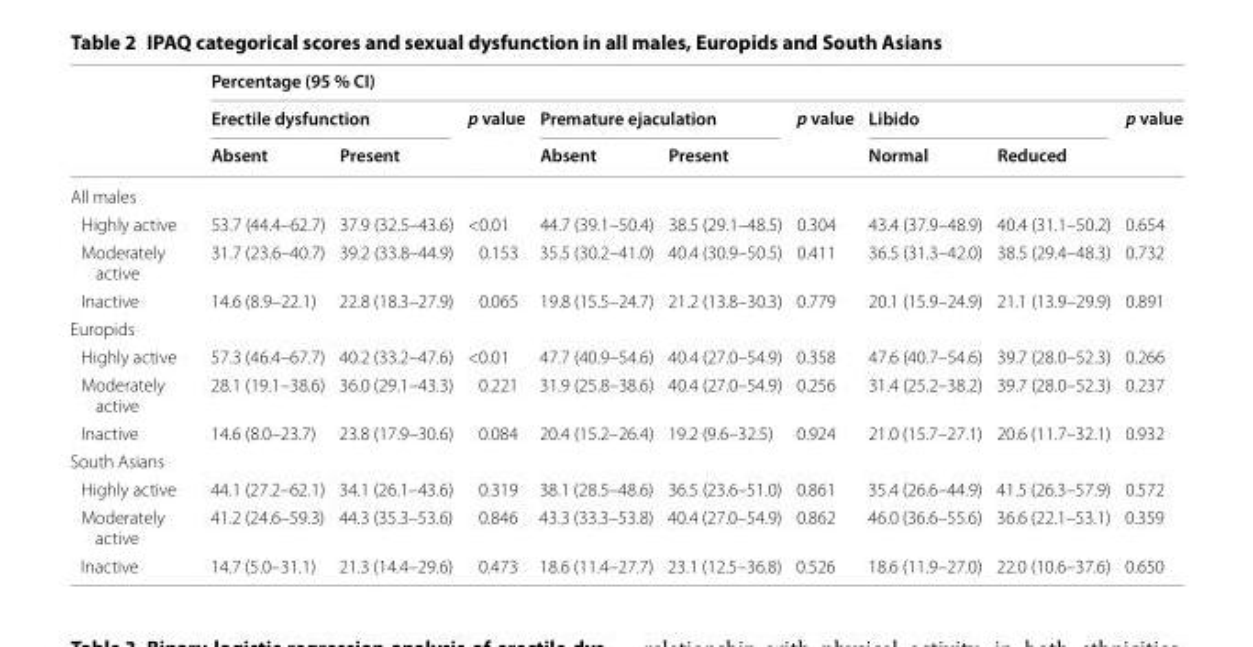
<table><thead><tr><td rowspan="3"></td><td colspan="9">Percentage (95 % CI)</td></tr><tr><td colspan="2">Erectile dysfunction</td><td rowspan="2">p value</td><td colspan="2">Premature ejaculation</td><td rowspan="2">p value</td><td colspan="2">Libido</td><td rowspan="2">p value</td></tr><tr><td>Absent</td><td>Present</td><td>Absent</td><td>Present</td><td>Normal</td><td>Reduced</td></tr></thead><tbody><tr><td colspan="10">All males</td></tr><tr><td>Highly active</td><td>53.7 (44.4–62.7)</td><td>37.9 (32.5–43.6)</td><td>&lt;0.01</td><td>44.7 (39.1–50.4)</td><td>38.5 (29.1–48.5)</td><td>0.304</td><td>43.4 (37.9–48.9)</td><td>40.4 (31.1–50.2)</td><td>0.654</td></tr><tr><td>Moderately active</td><td>31.7 (23.6–40.7)</td><td>39.2 (33.8–44.9)</td><td>0.153</td><td>35.5 (30.2–41.0)</td><td>40.4 (30.9–50.5)</td><td>0.411</td><td>36.5 (31.3–42.0)</td><td>38.5 (29.4–48.3)</td><td>0.732</td></tr><tr><td>Inactive</td><td>14.6 (8.9–22.1)</td><td>22.8 (18.3–27.9)</td><td>0.065</td><td>19.8 (15.5–24.7)</td><td>21.2 (13.8–30.3)</td><td>0.779</td><td>20.1 (15.9–24.9)</td><td>21.1 (13.9–29.9)</td><td>0.891</td></tr><tr><td colspan="10">Europids</td></tr><tr><td>Highly active</td><td>57.3 (46.4–67.7)</td><td>40.2 (33.2–47.6)</td><td>&lt;0.01</td><td>47.7 (40.9–54.6)</td><td>40.4 (27.0–54.9)</td><td>0.358</td><td>47.6 (40.7–54.6)</td><td>39.7 (28.0–52.3)</td><td>0.266</td></tr><tr><td>Moderately active</td><td>28.1 (19.1–38.6)</td><td>36.0 (29.1–43.3)</td><td>0.221</td><td>31.9 (25.8–38.6)</td><td>40.4 (27.0–54.9)</td><td>0.256</td><td>31.4 (25.2–38.2)</td><td>39.7 (28.0–52.3)</td><td>0.237</td></tr><tr><td>Inactive</td><td>14.6 (8.0–23.7)</td><td>23.8 (17.9–30.6)</td><td>0.084</td><td>20.4 (15.2–26.4)</td><td>19.2 (9.6–32.5)</td><td>0.924</td><td>21.0 (15.7–27.1)</td><td>20.6 (11.7–32.1)</td><td>0.932</td></tr><tr><td colspan="10">South Asians</td></tr><tr><td>Highly active</td><td>44.1 (27.2–62.1)</td><td>34.1 (26.1–43.6)</td><td>0.319</td><td>38.1 (28.5–48.6)</td><td>36.5 (23.6–51.0)</td><td>0.861</td><td>35.4 (26.6–44.9)</td><td>41.5 (26.3–57.9)</td><td>0.572</td></tr><tr><td>Moderately active</td><td>41.2 (24.6–59.3)</td><td>44.3 (35.3–53.6)</td><td>0.846</td><td>43.3 (33.3–53.8)</td><td>40.4 (27.0–54.9)</td><td>0.862</td><td>46.0 (36.6–55.6)</td><td>36.6 (22.1–53.1)</td><td>0.359</td></tr><tr><td>Inactive</td><td>14.7 (5.0–31.1)</td><td>21.3 (14.4–29.6)</td><td>0.473</td><td>18.6 (11.4–27.7)</td><td>23.1 (12.5–36.8)</td><td>0.526</td><td>18.6 (11.9–27.0)</td><td>22.0 (10.6–37.6)</td><td>0.650</td></tr></tbody></table>